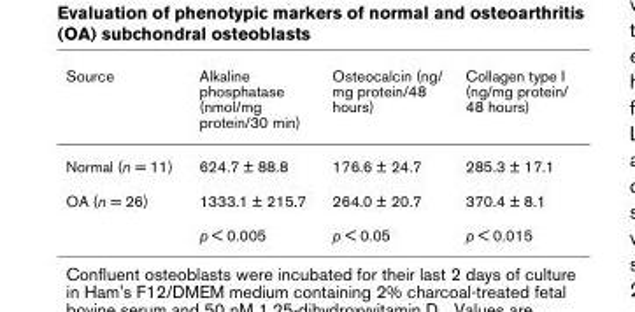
<table><thead><tr><td>Source</td><td>Alkaline phosphatase (nmol/mg protein/30 min)</td><td>Osteocalcin (ng/ mg protein/48 hours)</td><td>Collagen type I (ng/mg protein/ 48 hours)</td></tr></thead><tbody><tr><td>Normal (n = 11)</td><td>624.7 ± 88.8</td><td>176.6 ± 24.7</td><td>285.3 ± 17.1</td></tr><tr><td rowspan="2">OA (n = 26)</td><td>1333.1 ± 215.7</td><td>264.0 ± 20.7</td><td>370.4 ± 8.1</td></tr><tr><td>p &lt; 0.005</td><td>p &lt; 0.05</td><td>p &lt; 0.015</td></tr></tbody></table>